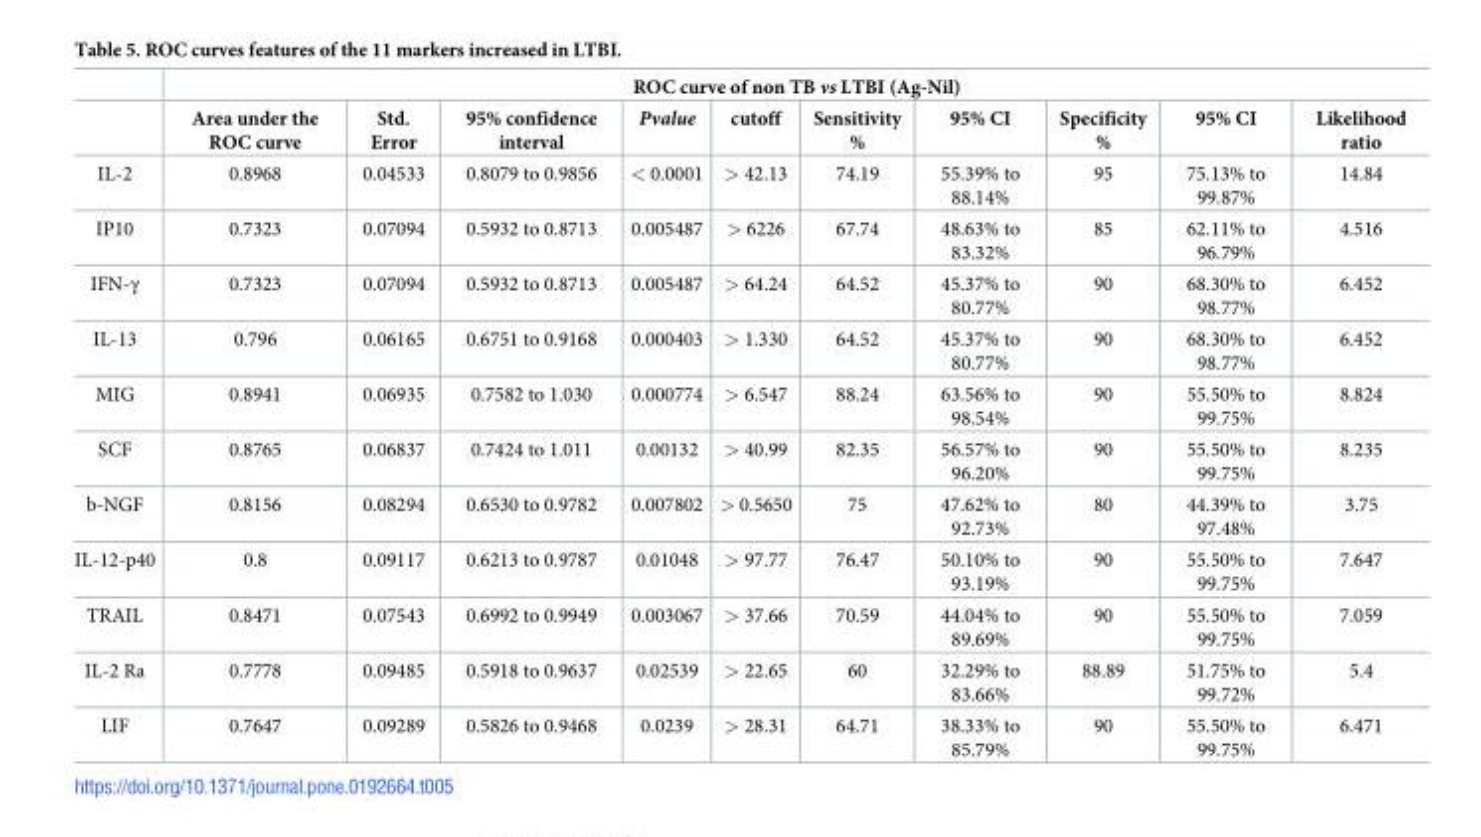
<table><thead><tr><td rowspan="2"></td><td colspan="10">ROC curve of non TB vs LTBI (Ag-Nil)</td></tr><tr><td>Area under the ROC curve</td><td>Std. Error</td><td>95% confidence interval</td><td>Pvalue</td><td>cutoff</td><td>Sensitivity %</td><td>95% CI</td><td>Specificity %</td><td>95% CI</td><td>Likelihood ratio</td></tr></thead><tbody><tr><td>IL-2</td><td>0.8968</td><td>0.04533</td><td>0.8079 to 0.9856</td><td>&lt; 0.0001</td><td>&gt; 42.13</td><td>74.19</td><td>55.39% to 88.14%</td><td>95</td><td>75.13% to 99.87%</td><td>14.84</td></tr><tr><td>IP10</td><td>0.7323</td><td>0.07094</td><td>0.5932 to 0.8713</td><td>0.005487</td><td>&gt; 6226</td><td>67.74</td><td>48.63% to 83.32%</td><td>85</td><td>62.11% to 96.79%</td><td>4.516</td></tr><tr><td>IFN-γ</td><td>0.7323</td><td>0.07094</td><td>0.5932 to 0.8713</td><td>0.005487</td><td>&gt; 64.24</td><td>64.52</td><td>45.37% to 80.77%</td><td>90</td><td>68.30% to 98.77%</td><td>6.452</td></tr><tr><td>IL-13</td><td>0.796</td><td>0.06165</td><td>0.6751 to 0.9168</td><td>0.000403</td><td>&gt; 1.330</td><td>64.52</td><td>45.37% to 80.77%</td><td>90</td><td>68.30% to 98.77%</td><td>6.452</td></tr><tr><td>MIG</td><td>0.8941</td><td>0.06935</td><td>0.7582 to 1.030</td><td>0.000774</td><td>&gt; 6.547</td><td>88.24</td><td>63.56% to 98.54%</td><td>90</td><td>55.50% to 99.75%</td><td>8.824</td></tr><tr><td>SCF</td><td>0.8765</td><td>0.06837</td><td>0.7424 to 1.011</td><td>0.00132</td><td>&gt; 40.99</td><td>82.35</td><td>56.57% to 96.20%</td><td>90</td><td>55.50% to 99.75%</td><td>8.235</td></tr><tr><td>b-NGF</td><td>0.8156</td><td>0.08294</td><td>0.6530 to 0.9782</td><td>0.007802</td><td>&gt; 0.5650</td><td>75</td><td>47.62% to 92.73%</td><td>80</td><td>44.39% to 97.48%</td><td>3.75</td></tr><tr><td>IL-12-p40</td><td>0.8</td><td>0.09117</td><td>0.6213 to 0.9787</td><td>0.01048</td><td>&gt; 97.77</td><td>76.47</td><td>50.10% to 93.19%</td><td>90</td><td>55.50% to 99.75%</td><td>7.647</td></tr><tr><td>TRAIL</td><td>0.8471</td><td>0.07543</td><td>0.6992 to 0.9949</td><td>0.003067</td><td>&gt; 37.66</td><td>70.59</td><td>44.04% to 89.69%</td><td>90</td><td>55.50% to 99.75%</td><td>7.059</td></tr><tr><td>IL-2 Ra</td><td>0.7778</td><td>0.09485</td><td>0.5918 to 0.9637</td><td>0.02539</td><td>&gt; 22.65</td><td>60</td><td>32.29% to 83.66%</td><td>88.89</td><td>51.75% to 99.72%</td><td>5.4</td></tr><tr><td>LIF</td><td>0.7647</td><td>0.09289</td><td>0.5826 to 0.9468</td><td>0.0239</td><td>&gt; 28.31</td><td>64.71</td><td>38.33% to 85.79%</td><td>90</td><td>55.50% to 99.75%</td><td>6.471</td></tr></tbody></table>